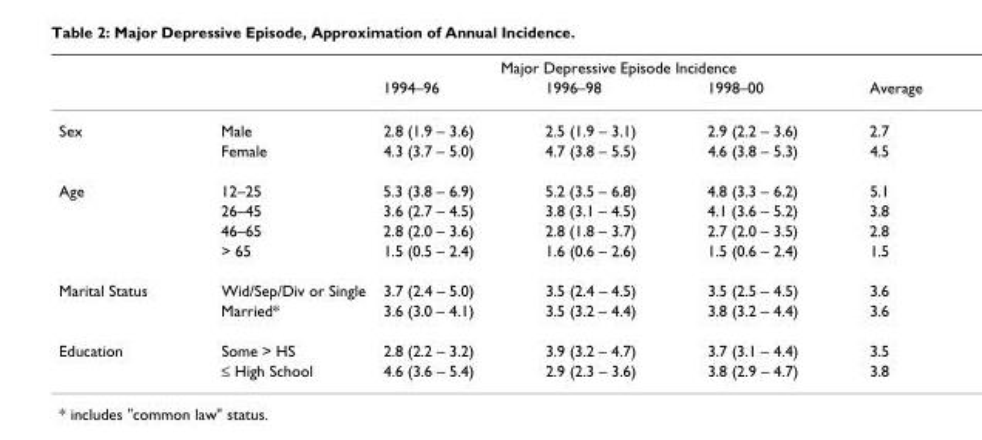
<table><thead><tr><td rowspan="2"></td><td rowspan="2"></td><td colspan="3">Major Depressive Episode Incidence</td><td rowspan="2">Average</td></tr><tr><td>1994–96</td><td>1996–98</td><td>1998–00</td></tr></thead><tbody><tr><td rowspan="2">Sex</td><td>Male</td><td>2.8 (1.9 – 3.6)</td><td>2.5 (1.9 – 3.1)</td><td>2.9 (2.2 – 3.6)</td><td>2.7</td></tr><tr><td>Female</td><td>4.3 (3.7 – 5.0)</td><td>4.7 (3.8 – 5.5)</td><td>4.6 (3.8 – 5.3)</td><td>4.5</td></tr><tr><td rowspan="4">Age</td><td>12–25</td><td>5.3 (3.8 – 6.9)</td><td>5.2 (3.5 – 6.8)</td><td>4.8 (3.3 – 6.2)</td><td>5.1</td></tr><tr><td>26–45</td><td>3.6 (2.7 – 4.5)</td><td>3.8 (3.1 – 4.5)</td><td>4.1 (3.6 – 5.2)</td><td>3.8</td></tr><tr><td>46–65</td><td>2.8 (2.0 – 3.6)</td><td>2.8 (1.8 – 3.7)</td><td>2.7 (2.0 – 3.5)</td><td>2.8</td></tr><tr><td>&gt; 65</td><td>1.5 (0.5 – 2.4)</td><td>1.6 (0.6 – 2.6)</td><td>1.5 (0.6 – 2.4)</td><td>1.5</td></tr><tr><td rowspan="2">Marital Status</td><td>Wid/Sep/Div or Single</td><td>3.7 (2.4 – 5.0)</td><td>3.5 (2.4 – 4.5)</td><td>3.5 (2.5 – 4.5)</td><td>3.6</td></tr><tr><td>Married*</td><td>3.6 (3.0 – 4.1)</td><td>3.5 (3.2 – 4.4)</td><td>3.8 (3.2 – 4.4)</td><td>3.6</td></tr><tr><td rowspan="2">Education</td><td>Some &gt; HS</td><td>2.8 (2.2 – 3.2)</td><td>3.9 (3.2 – 4.7)</td><td>3.7 (3.1 – 4.4)</td><td>3.5</td></tr><tr><td>≤ High School</td><td>4.6 (3.6 – 5.4)</td><td>2.9 (2.3 – 3.6)</td><td>3.8 (2.9 – 4.7)</td><td>3.8</td></tr></tbody></table>